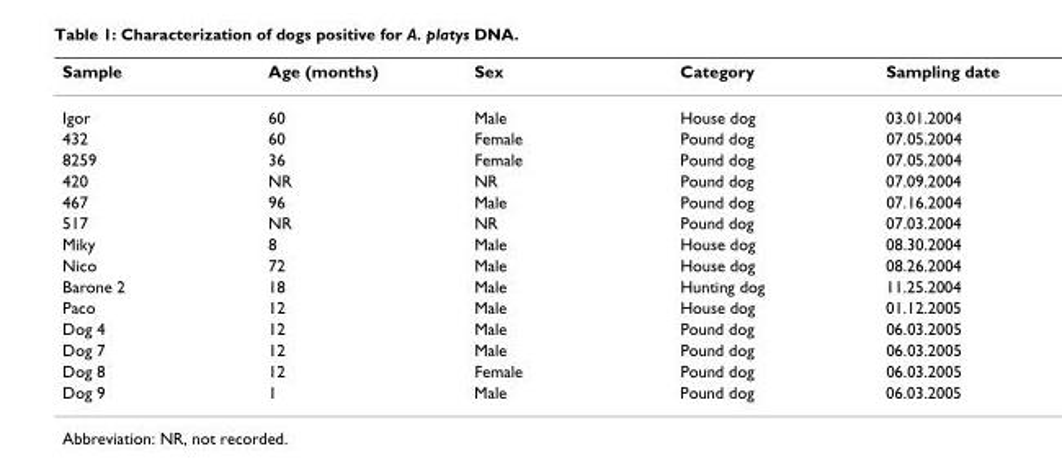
<table><thead><tr><td>Sample</td><td>Age (months)</td><td>Sex</td><td>Category</td><td>Sampling date</td></tr></thead><tbody><tr><td>Igor</td><td>60</td><td>Male</td><td>House dog</td><td>03.01.2004</td></tr><tr><td>432</td><td>60</td><td>Female</td><td>Pound dog</td><td>07.05.2004</td></tr><tr><td>8259</td><td>36</td><td>Female</td><td>Pound dog</td><td>07.05.2004</td></tr><tr><td>420</td><td>NR</td><td>NR</td><td>Pound dog</td><td>07.09.2004</td></tr><tr><td>467</td><td>96</td><td>Male</td><td>Pound dog</td><td>07.16.2004</td></tr><tr><td>517</td><td>NR</td><td>NR</td><td>Pound dog</td><td>07.03.2004</td></tr><tr><td>Miky</td><td>8</td><td>Male</td><td>House dog</td><td>08.30.2004</td></tr><tr><td>Nico</td><td>72</td><td>Male</td><td>House dog</td><td>08.26.2004</td></tr><tr><td>Barone 2</td><td>18</td><td>Male</td><td>Hunting dog</td><td>11.25.2004</td></tr><tr><td>Paco</td><td>12</td><td>Male</td><td>House dog</td><td>01.12.2005</td></tr><tr><td>Dog 4</td><td>12</td><td>Male</td><td>Pound dog</td><td>06.03.2005</td></tr><tr><td>Dog 7</td><td>12</td><td>Male</td><td>Pound dog</td><td>06.03.2005</td></tr><tr><td>Dog 8</td><td>12</td><td>Female</td><td>Pound dog</td><td>06.03.2005</td></tr><tr><td>Dog 9</td><td>1</td><td>Male</td><td>Pound dog</td><td>06.03.2005</td></tr></tbody></table>